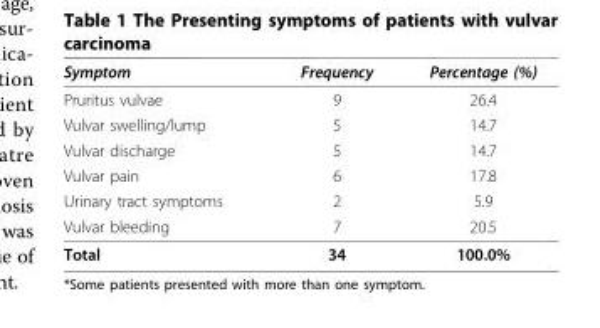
<table><thead><tr><td>Symptom</td><td>Frequency</td><td>Percentage (%)</td></tr></thead><tbody><tr><td>Pruritus vulvae</td><td>9</td><td>26.4</td></tr><tr><td>Vulvar swelling/lump</td><td>5</td><td>14.7</td></tr><tr><td>Vulvar discharge</td><td>5</td><td>14.7</td></tr><tr><td>Vulvar pain</td><td>6</td><td>17.8</td></tr><tr><td>Urinary tract symptoms</td><td>2</td><td>5.9</td></tr><tr><td>Vulvar bleeding</td><td>7</td><td>20.5</td></tr><tr><td>Total</td><td>34</td><td>100.0%</td></tr></tbody></table>